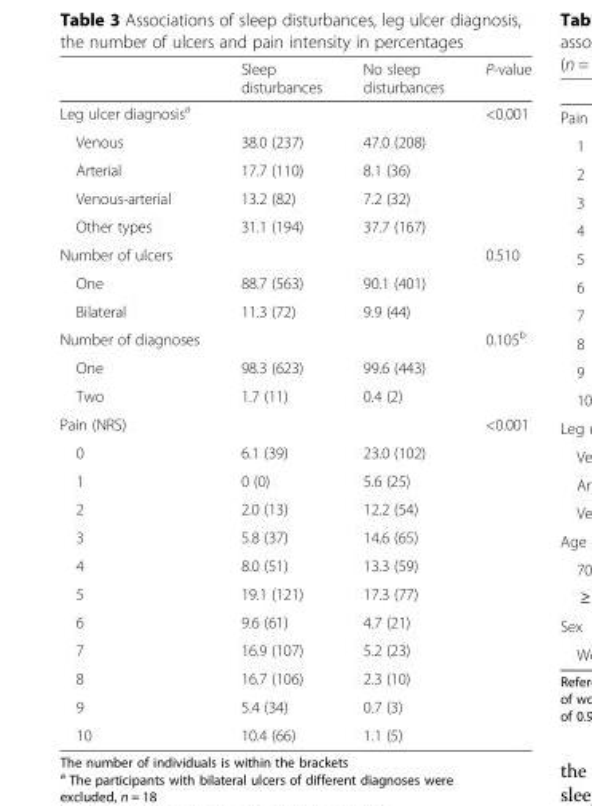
<table><thead><tr><td></td><td>Sleep disturbances</td><td>No sleep disturbances</td><td>P-value</td></tr></thead><tbody><tr><td>Leg ulcer diagnosis<sup>a</sup></td><td></td><td></td><td>&lt;0.001</td></tr><tr><td>Venous</td><td>38.0 (237)</td><td>47.0 (208)</td><td></td></tr><tr><td>Arterial</td><td>17.7 (110)</td><td>8.1 (36)</td><td></td></tr><tr><td>Venous-arterial</td><td>13.2 (82)</td><td>7.2 (32)</td><td></td></tr><tr><td>Other types</td><td>31.1 (194)</td><td>37.7 (167)</td><td></td></tr><tr><td>Number of ulcers</td><td></td><td></td><td>0.510</td></tr><tr><td>One</td><td>88.7 (563)</td><td>90.1 (401)</td><td></td></tr><tr><td>Bilateral</td><td>11.3 (72)</td><td>9.9 (44)</td><td></td></tr><tr><td>Number of diagnoses</td><td></td><td></td><td>0.105<sup>b</sup></td></tr><tr><td>One</td><td>98.3 (623)</td><td>99.6 (443)</td><td></td></tr><tr><td>Two</td><td>1.7 (11)</td><td>0.4 (2)</td><td></td></tr><tr><td>Pain (NRS)</td><td></td><td></td><td>&lt;0.001</td></tr><tr><td>0</td><td>6.1 (39)</td><td>23.0 (102)</td><td></td></tr><tr><td>1</td><td>0 (0)</td><td>5.6 (25)</td><td></td></tr><tr><td>2</td><td>2.0 (13)</td><td>12.2 (54)</td><td></td></tr><tr><td>3</td><td>5.8 (37)</td><td>14.6 (65)</td><td></td></tr><tr><td>4</td><td>8.0 (51)</td><td>13.3 (59)</td><td></td></tr><tr><td>5</td><td>19.1 (121)</td><td>17.3 (77)</td><td></td></tr><tr><td>6</td><td>9.6 (61)</td><td>4.7 (21)</td><td></td></tr><tr><td>7</td><td>16.9 (107)</td><td>5.2 (23)</td><td></td></tr><tr><td>8</td><td>16.7 (106)</td><td>2.3 (10)</td><td></td></tr><tr><td>9</td><td>5.4 (34)</td><td>0.7 (3)</td><td></td></tr><tr><td>10</td><td>10.4 (66)</td><td>1.1 (5)</td><td></td></tr></tbody></table>